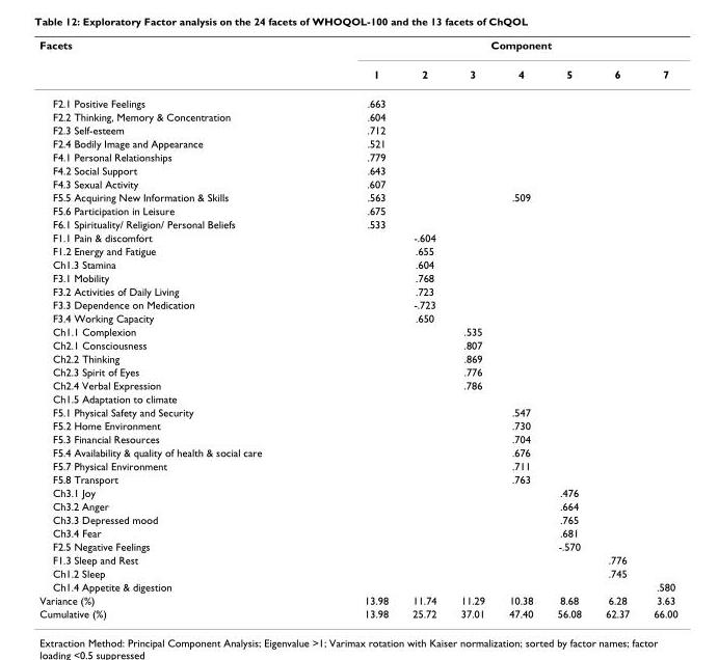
<table><thead><tr><td rowspan="2">Facets</td><td colspan="7">Component</td></tr><tr><td>1</td><td>2</td><td>3</td><td>4</td><td>5</td><td>6</td><td>7</td></tr></thead><tbody><tr><td>F2.1 Positive Feelings</td><td>.663</td><td></td><td></td><td></td><td></td><td></td><td></td></tr><tr><td>F2.2 Thinking, Memory &amp; Concentration</td><td>.604</td><td></td><td></td><td></td><td></td><td></td><td></td></tr><tr><td>F2.3 Self-esteem</td><td>.712</td><td></td><td></td><td></td><td></td><td></td><td></td></tr><tr><td>F2.4 Bodily Image and Appearance</td><td>.521</td><td></td><td></td><td></td><td></td><td></td><td></td></tr><tr><td>F4.1 Personal Relationships</td><td>.779</td><td></td><td></td><td></td><td></td><td></td><td></td></tr><tr><td>F4.2 Social Support</td><td>.643</td><td></td><td></td><td></td><td></td><td></td><td></td></tr><tr><td>F4.3 Sexual Activity</td><td>.607</td><td></td><td></td><td></td><td></td><td></td><td></td></tr><tr><td>F5.5 Acquiring New Information &amp; Skills</td><td>.563</td><td></td><td></td><td>.509</td><td></td><td></td><td></td></tr><tr><td>F5.6 Participation in Leisure</td><td>.675</td><td></td><td></td><td></td><td></td><td></td><td></td></tr><tr><td>F6.1 Spirituality/ Religion/ Personal Beliefs</td><td>.533</td><td></td><td></td><td></td><td></td><td></td><td></td></tr><tr><td>F1.1 Pain &amp; discomfort</td><td></td><td>-.604</td><td></td><td></td><td></td><td></td><td></td></tr><tr><td>F1.2 Energy and Fatigue</td><td></td><td>.655</td><td></td><td></td><td></td><td></td><td></td></tr><tr><td>Ch1.3 Stamina</td><td></td><td>.604</td><td></td><td></td><td></td><td></td><td></td></tr><tr><td>F3.1 Mobility</td><td></td><td>.768</td><td></td><td></td><td></td><td></td><td></td></tr><tr><td>F3.2 Activities of Daily Living</td><td></td><td>.723</td><td></td><td></td><td></td><td></td><td></td></tr><tr><td>F3.3 Dependence on Medication</td><td></td><td>-.723</td><td></td><td></td><td></td><td></td><td></td></tr><tr><td>F3.4 Working Capacity</td><td></td><td>.650</td><td></td><td></td><td></td><td></td><td></td></tr><tr><td>Ch1.1 Complexion</td><td></td><td></td><td>.535</td><td></td><td></td><td></td><td></td></tr><tr><td>Ch2.1 Consciousness</td><td></td><td></td><td>.807</td><td></td><td></td><td></td><td></td></tr><tr><td>Ch2.2 Thinking</td><td></td><td></td><td>.869</td><td></td><td></td><td></td><td></td></tr><tr><td>Ch2.3 Spirit of Eyes</td><td></td><td></td><td>.776</td><td></td><td></td><td></td><td></td></tr><tr><td>Ch2.4 Verbal Expression</td><td></td><td></td><td>.786</td><td></td><td></td><td></td><td></td></tr><tr><td colspan="8">Ch1.5 Adaptation to climate</td></tr><tr><td>F5.1 Physical Safety and Security</td><td></td><td></td><td></td><td>.547</td><td></td><td></td><td></td></tr><tr><td>F5.2 Home Environment</td><td></td><td></td><td></td><td>.730</td><td></td><td></td><td></td></tr><tr><td>F5.3 Financial Resources</td><td></td><td></td><td></td><td>.704</td><td></td><td></td><td></td></tr><tr><td>F5.4 Availability &amp; quality of health &amp; social care</td><td></td><td></td><td></td><td>.676</td><td></td><td></td><td></td></tr><tr><td>F5.7 Physical Environment</td><td></td><td></td><td></td><td>.711</td><td></td><td></td><td></td></tr><tr><td>F5.8 Transport</td><td></td><td></td><td></td><td>.763</td><td></td><td></td><td></td></tr><tr><td>Ch3.1 Joy</td><td></td><td></td><td></td><td></td><td>.476</td><td></td><td></td></tr><tr><td>Ch3.2 Anger</td><td></td><td></td><td></td><td></td><td>.664</td><td></td><td></td></tr><tr><td>Ch3.3 Depressed mood</td><td></td><td></td><td></td><td></td><td>.765</td><td></td><td></td></tr><tr><td>Ch3.4 Fear</td><td></td><td></td><td></td><td></td><td>.681</td><td></td><td></td></tr><tr><td>F2.5 Negative Feelings</td><td></td><td></td><td></td><td></td><td>-.570</td><td></td><td></td></tr><tr><td>F1.3 Sleep and Rest</td><td></td><td></td><td></td><td></td><td></td><td>.776</td><td></td></tr><tr><td>Ch1.2 Sleep</td><td></td><td></td><td></td><td></td><td></td><td>.745</td><td></td></tr><tr><td>Ch1.4 Appetite &amp; digestion</td><td></td><td></td><td></td><td></td><td></td><td></td><td>.580</td></tr><tr><td>Variance (%)</td><td>13.98</td><td>11.74</td><td>11.29</td><td>10.38</td><td>8.68</td><td>6.28</td><td>3.63</td></tr><tr><td>Cumulative (%)</td><td>13.98</td><td>25.72</td><td>37.01</td><td>47.40</td><td>56.08</td><td>62.37</td><td>66.00</td></tr></tbody></table>